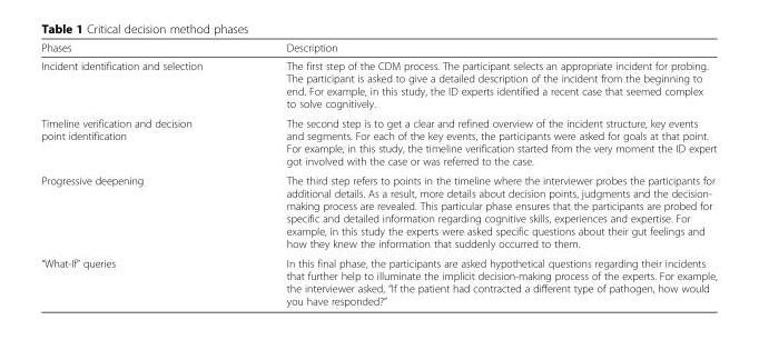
<table><thead><tr><td>Phases</td><td>Description</td></tr></thead><tbody><tr><td>Incident identification and selection</td><td>The first step of the CDM process. The participant selects an appropriate incident for probing. The participant is asked to give a detailed description of the incident from the beginning to end. For example, in this study, the ID experts identified a recent case that seemed complex to solve cognitively.</td></tr><tr><td>Timeline verification and decision point identification</td><td>The second step is to get a clear and refined overview of the incident structure, key events and segments. For each of the key events, the participants were asked for goals at that point. For example, in this study, the timeline verification started from the very moment the ID expert got involved with the case or was referred to the case.</td></tr><tr><td>Progressive deepening</td><td>The third step refers to points in the timeline where the interviewer probes the participants for additional details. As a result, more details about decision points, judgments and the decision- making process are revealed. This particular phase ensures that the participants are probed for specific and detailed information regarding cognitive skills, experiences and expertise. For example, in this study the experts were asked specific questions about their gut feelings and how they knew the information that suddenly occurred to them.</td></tr><tr><td>“What-If” queries</td><td>In this final phase, the participants are asked hypothetical questions regarding their incidents that further help to illuminate the implicit decision-making process of the experts. For example, the interviewer asked, “If the patient had contracted a different type of pathogen, how would you have responded?”</td></tr></tbody></table>